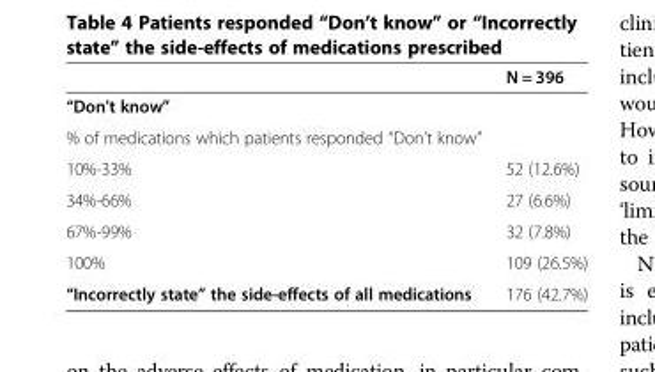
<table><thead><tr><td></td><td>N = 396</td></tr></thead><tbody><tr><td colspan="2">“Don&#x27;t know”</td></tr><tr><td colspan="2">% of medications which patients responded “Don’t know”</td></tr><tr><td>10%-33%</td><td>52 (12.6%)</td></tr><tr><td>34%-66%</td><td>27 (6.6%)</td></tr><tr><td>67%-99%</td><td>32 (7.8%)</td></tr><tr><td>100%</td><td>109 (26.5%)</td></tr><tr><td>“Incorrectly state” the side-effects of all medications</td><td>176 (42.7%)</td></tr></tbody></table>